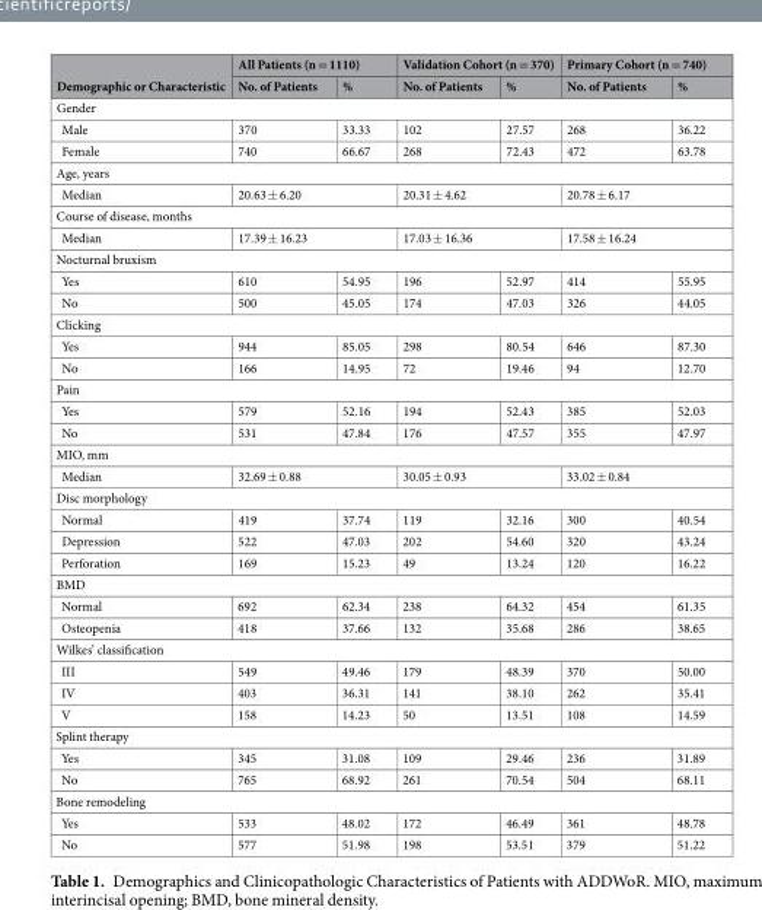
<table><thead><tr><td rowspan="2">Demographic or Characteristic</td><td colspan="2">All Patients (n = 1110)</td><td colspan="2">Validation Cohort (n = 370)</td><td colspan="2">Primary Cohort (n = 740)</td></tr><tr><td>No. of Patients</td><td>%</td><td>No. of Patients</td><td>%</td><td>No. of Patients</td><td>%</td></tr></thead><tbody><tr><td colspan="7">Gender</td></tr><tr><td>Male</td><td>370</td><td>33.33</td><td>102</td><td>27.57</td><td>268</td><td>36.22</td></tr><tr><td>Female</td><td>740</td><td>66.67</td><td>268</td><td>72.43</td><td>472</td><td>63.78</td></tr><tr><td colspan="7">Age, years</td></tr><tr><td>Median</td><td colspan="2">20.63 ± 6.20</td><td colspan="2">20.31 ± 4.62</td><td colspan="2">20.78 ± 6.17</td></tr><tr><td colspan="7">Course of disease, months</td></tr><tr><td>Median</td><td colspan="2">17.39 ± 16.23</td><td colspan="2">17.03 ± 16.36</td><td colspan="2">17.58 ± 16.24</td></tr><tr><td colspan="7">Nocturnal bruxism</td></tr><tr><td>Yes</td><td>610</td><td>54.95</td><td>196</td><td>52.97</td><td>414</td><td>55.95</td></tr><tr><td>No</td><td>500</td><td>45.05</td><td>174</td><td>47.03</td><td>326</td><td>44.05</td></tr><tr><td colspan="7">Clicking</td></tr><tr><td>Yes</td><td>944</td><td>85.05</td><td>298</td><td>80.54</td><td>646</td><td>87.30</td></tr><tr><td>No</td><td>166</td><td>14.95</td><td>72</td><td>19.46</td><td>94</td><td>12.70</td></tr><tr><td colspan="7">Pain</td></tr><tr><td>Yes</td><td>579</td><td>52.16</td><td>194</td><td>52.43</td><td>385</td><td>52.03</td></tr><tr><td>No</td><td>531</td><td>47.84</td><td>176</td><td>47.57</td><td>355</td><td>47.97</td></tr><tr><td colspan="7">MIO, mm</td></tr><tr><td>Median</td><td colspan="2">32.69 ± 0.88</td><td colspan="2">30.05 ± 0.93</td><td colspan="2">33.02 ± 0.84</td></tr><tr><td colspan="7">Disc morphology</td></tr><tr><td>Normal</td><td>419</td><td>37.74</td><td>119</td><td>32.16</td><td>300</td><td>40.54</td></tr><tr><td>Depression</td><td>522</td><td>47.03</td><td>202</td><td>54.60</td><td>320</td><td>43.24</td></tr><tr><td>Perforation</td><td>169</td><td>15.23</td><td>49</td><td>13.24</td><td>120</td><td>16.22</td></tr><tr><td colspan="7">BMD</td></tr><tr><td>Normal</td><td>692</td><td>62.34</td><td>238</td><td>64.32</td><td>454</td><td>61.35</td></tr><tr><td>Osteopenia</td><td>418</td><td>37.66</td><td>132</td><td>35.68</td><td>286</td><td>38.65</td></tr><tr><td colspan="7">Wilkes’ classification</td></tr><tr><td>III</td><td>549</td><td>49.46</td><td>179</td><td>48.39</td><td>370</td><td>50.00</td></tr><tr><td>IV</td><td>403</td><td>36.31</td><td>141</td><td>38.10</td><td>262</td><td>35.41</td></tr><tr><td>V</td><td>158</td><td>14.23</td><td>50</td><td>13.51</td><td>108</td><td>14.59</td></tr><tr><td colspan="7">Splint therapy</td></tr><tr><td>Yes</td><td>345</td><td>31.08</td><td>109</td><td>29.46</td><td>236</td><td>31.89</td></tr><tr><td>No</td><td>765</td><td>68.92</td><td>261</td><td>70.54</td><td>504</td><td>68.11</td></tr><tr><td colspan="7">Bone remodeling</td></tr><tr><td>Yes</td><td>533</td><td>48.02</td><td>172</td><td>46.49</td><td>361</td><td>48.78</td></tr><tr><td>No</td><td>577</td><td>51.98</td><td>198</td><td>53.51</td><td>379</td><td>51.22</td></tr></tbody></table>